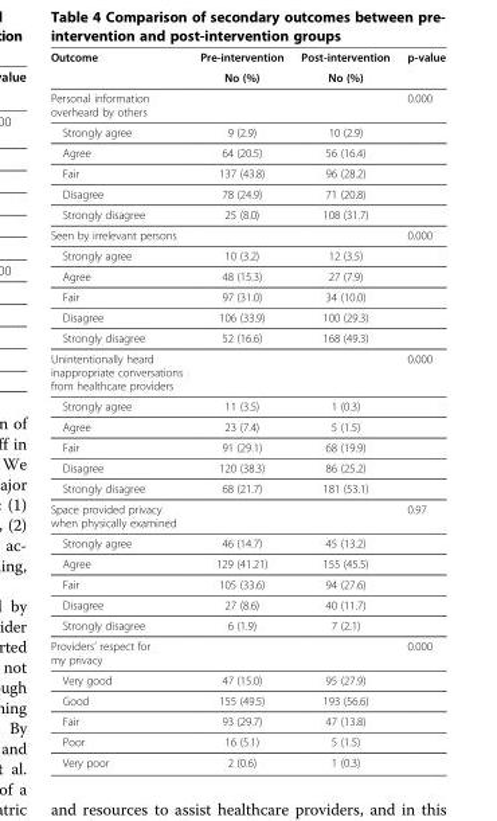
<table><thead><tr><td rowspan="2">Outcome</td><td rowspan="2">Pre-intervention No (%)</td><td rowspan="2">Post-intervention No (%)</td><td rowspan="2">p-value</td></tr><tr></tr></thead><tbody><tr><td>Personal information overheard by others</td><td></td><td></td><td>0.000</td></tr><tr><td>Strongly agree</td><td>9 (2.9)</td><td>10 (2.9)</td><td></td></tr><tr><td>Agree</td><td>64 (20.5)</td><td>56 (16.4)</td><td></td></tr><tr><td>Fair</td><td>137 (43.8)</td><td>96 (28.2)</td><td></td></tr><tr><td>Disagree</td><td>78 (24.9)</td><td>71 (20.8)</td><td></td></tr><tr><td>Strongly disagree</td><td>25 (8.0)</td><td>108 (31.7)</td><td></td></tr><tr><td>Seen by irrelevant persons</td><td></td><td></td><td>0.000</td></tr><tr><td>Strongly agree</td><td>10 (3.2)</td><td>12 (3.5)</td><td></td></tr><tr><td>Agree</td><td>48 (15.3)</td><td>27 (7.9)</td><td></td></tr><tr><td>Fair</td><td>97 (31.0)</td><td>34 (10.0)</td><td></td></tr><tr><td>Disagree</td><td>106 (33.9)</td><td>100 (29.3)</td><td></td></tr><tr><td>Strongly disagree</td><td>52 (16.6)</td><td>168 (49.3)</td><td></td></tr><tr><td>Unintentionally heard inappropriate conversations from healthcare providers</td><td></td><td></td><td>0.000</td></tr><tr><td>Strongly agree</td><td>11 (3.5)</td><td>1 (0.3)</td><td></td></tr><tr><td>Agree</td><td>23 (7.4)</td><td>5 (1.5)</td><td></td></tr><tr><td>Fair</td><td>91 (29.1)</td><td>68 (19.9)</td><td></td></tr><tr><td>Disagree</td><td>120 (38.3)</td><td>86 (25.2)</td><td></td></tr><tr><td>Strongly disagree</td><td>68 (21.7)</td><td>181 (53.1)</td><td></td></tr><tr><td>Space provided privacy when physically examined</td><td></td><td></td><td>0.97</td></tr><tr><td>Strongly agree</td><td>46 (14.7)</td><td>45 (13.2)</td><td></td></tr><tr><td>Agree</td><td>129 (41.21)</td><td>155 (45.5)</td><td></td></tr><tr><td>Fair</td><td>105 (33.6)</td><td>94 (27.6)</td><td></td></tr><tr><td>Disagree</td><td>27 (8.6)</td><td>40 (11.7)</td><td></td></tr><tr><td>Strongly disagree</td><td>6 (1.9)</td><td>7 (2.1)</td><td></td></tr><tr><td>Providers’ respect for my privacy</td><td></td><td></td><td>0.000</td></tr><tr><td>Very good</td><td>47 (15.0)</td><td>95 (27.9)</td><td></td></tr><tr><td>Good</td><td>155 (49.5)</td><td>193 (56.6)</td><td></td></tr><tr><td>Fair</td><td>93 (29.7)</td><td>47 (13.8)</td><td></td></tr><tr><td>Poor</td><td>16 (5.1)</td><td>5 (1.5)</td><td></td></tr><tr><td>Very poor</td><td>2 (0.6)</td><td>1 (0.3)</td><td></td></tr></tbody></table>